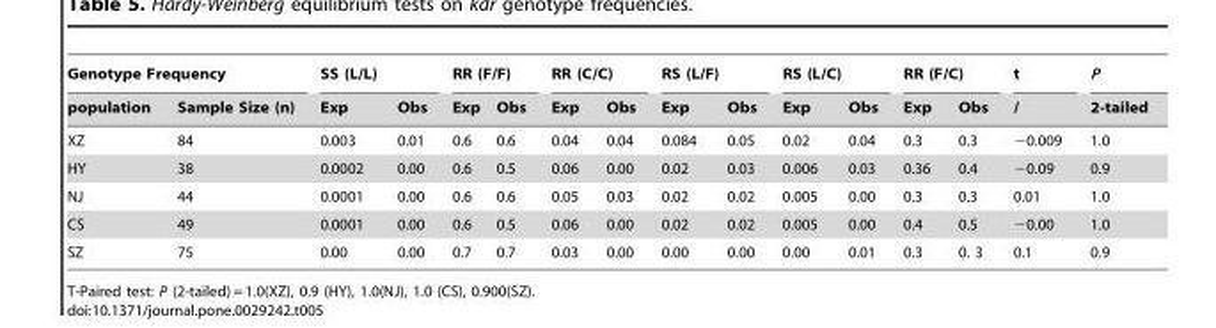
<table><thead><tr><td colspan="2">Genotype Frequency</td><td colspan="2">SS (L/L)</td><td colspan="2">RR (F/F)</td><td colspan="2">RR (C/C)</td><td colspan="2">RS (L/F)</td><td colspan="2">RS (L/C)</td><td colspan="2">RR (F/C)</td><td rowspan="2">t /</td><td rowspan="2">P 2-tailed</td></tr><tr><td>population</td><td>Sample Size (n)</td><td>Exp</td><td>Obs</td><td>Exp</td><td>Obs</td><td>Exp</td><td>Obs</td><td>Exp</td><td>Obs</td><td>Exp</td><td>Obs</td><td>Exp</td><td>Obs</td></tr></thead><tbody><tr><td>XZ</td><td>84</td><td>0.003</td><td>0.01</td><td>0.6</td><td>0.6</td><td>0.04</td><td>0.04</td><td>0.084</td><td>0.05</td><td>0.02</td><td>0.04</td><td>0.3</td><td>0.3</td><td>−0.009</td><td>1.0</td></tr><tr><td>HY</td><td>38</td><td>0.0002</td><td>0.00</td><td>0.6</td><td>0.5</td><td>0.06</td><td>0.00</td><td>0.02</td><td>0.03</td><td>0.006</td><td>0.03</td><td>0.36</td><td>0.4</td><td>−0.09</td><td>0.9</td></tr><tr><td>NJ</td><td>44</td><td>0.0001</td><td>0.00</td><td>0.6</td><td>0.6</td><td>0.05</td><td>0.03</td><td>0.02</td><td>0.02</td><td>0.005</td><td>0.00</td><td>0.3</td><td>0.3</td><td>0.01</td><td>1.0</td></tr><tr><td>CS</td><td>49</td><td>0.0001</td><td>0.00</td><td>0.6</td><td>0.5</td><td>0.06</td><td>0.00</td><td>0.02</td><td>0.02</td><td>0.005</td><td>0.00</td><td>0.4</td><td>0.5</td><td>−0.00</td><td>1.0</td></tr><tr><td>SZ</td><td>75</td><td>0.00</td><td>0.00</td><td>0.7</td><td>0.7</td><td>0.03</td><td>0.00</td><td>0.00</td><td>0.00</td><td>0.00</td><td>0.01</td><td>0.3</td><td>0. 3</td><td>0.1</td><td>0.9</td></tr></tbody></table>